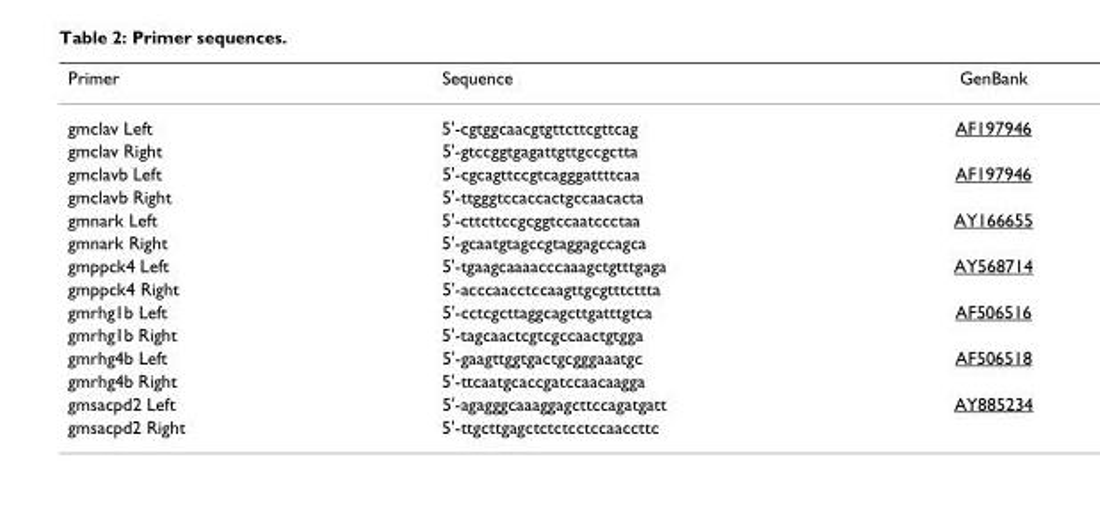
<table><thead><tr><td>Primer</td><td>Sequence</td><td>GenBank</td></tr></thead><tbody><tr><td>gmclav Left</td><td>5&#x27;-cgtggcaacgtgttcttcgttcag</td><td>AF197946</td></tr><tr><td>gmclav Right</td><td>5&#x27;-gtccggtgagattgttgccgctta</td><td></td></tr><tr><td>gmclavb Left</td><td>5&#x27;-cgcagttccgtcagggattttcaa</td><td>AF197946</td></tr><tr><td>gmclavb Right</td><td>5&#x27;-ttgggtccaccactgccaacacta</td><td></td></tr><tr><td>gmnark Left</td><td>5&#x27;-cttcttccgcggtccaatccctaa</td><td>AY166655</td></tr><tr><td>gmnark Right</td><td>5&#x27;-gcaatgtagccgtaggagccagca</td><td></td></tr><tr><td>gmppck4 Left</td><td>5&#x27;-tgaagcaaaacccaaagctgtttgaga</td><td>AY568714</td></tr><tr><td>gmppck4 Right</td><td>5&#x27;-acccaacctccaagttgcgtttcttta</td><td></td></tr><tr><td>gmrhg1b Left</td><td>5&#x27;-cctcgcttaggcagcttgatttgtca</td><td>AF506516</td></tr><tr><td>gmrhg1b Right</td><td>5&#x27;-tagcaactcgtcgccaactgtgga</td><td></td></tr><tr><td>gmrhg4b Left</td><td>5&#x27;-gaagttggtgactgcgggaaatgc</td><td>AF506518</td></tr><tr><td>gmrhg4b Right</td><td>5&#x27;-ttcaatgcaccgatccaacaagga</td><td></td></tr><tr><td>gmsacpd2 Left</td><td>5&#x27;-agagggcaaaggagcttccagatgatt</td><td>AY885234</td></tr><tr><td>gmsacpd2 Right</td><td>5&#x27;-ttgcttgagctctctcctccaaccttc</td><td></td></tr></tbody></table>